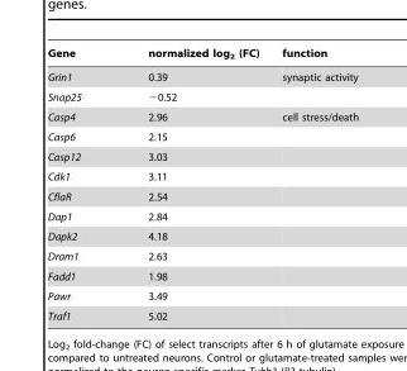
<table><thead><tr><td>Gene</td><td>normalized log<sub>2</sub> (FC)</td><td>function</td></tr></thead><tbody><tr><td>Grin1</td><td>0.39</td><td>synaptic activity</td></tr><tr><td>Snap25</td><td>−0.52</td><td></td></tr><tr><td>Casp4</td><td>2.96</td><td>cell stress/death</td></tr><tr><td>Casp6</td><td>2.15</td><td></td></tr><tr><td>Casp12</td><td>3.03</td><td></td></tr><tr><td>Cdk1</td><td>3.11</td><td></td></tr><tr><td>CflaR</td><td>2.54</td><td></td></tr><tr><td>Dap1</td><td>2.84</td><td></td></tr><tr><td>Dapk2</td><td>4.18</td><td></td></tr><tr><td>Dram1</td><td>2.63</td><td></td></tr><tr><td>Fadd1</td><td>1.98</td><td></td></tr><tr><td>Pawr</td><td>3.49</td><td></td></tr><tr><td>Traf1</td><td>5.02</td><td></td></tr></tbody></table>